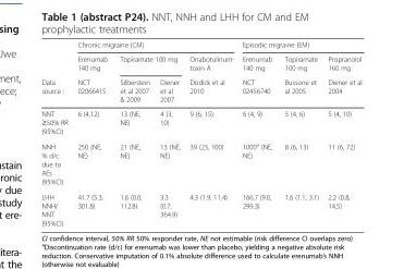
<table><thead><tr><td rowspan="3">Data source :</td><td colspan="4">Chronic migraine (CM)</td><td colspan="3">Episodic migraine (EM)</td></tr><tr><td rowspan="2">Erenumab 140 mg NCT 02066415</td><td colspan="2">Topiramate 100 mg</td><td rowspan="2">Onabotulinum- toxin A Dodick et al 2010</td><td rowspan="2">Erenumab 140 mg NCT 02456740</td><td rowspan="2">Topiramate 100 mg Bussone et al 2005</td><td rowspan="2">Propranolol 160 mg Diener et al 2004</td></tr><tr><td>Silberstein et al 2007 &amp; 2009</td><td>Diener et al 2007</td></tr></thead><tbody><tr><td>NNT ≥50% RR (95%CI)</td><td>6 (4,12)</td><td>13 (NE, NE)</td><td>4 (3, 10)</td><td>9 (6, 15)</td><td>6 (4, 9)</td><td>5 (4, 6)</td><td>5 (4, 10)</td></tr><tr><td>NNH % d/c due to AEs (95%CI)</td><td>250 (NE, NE)</td><td>21 (NE, NE)</td><td>13 (NE, NE)</td><td>39 (23, 100)</td><td>1000<sup>a</sup> (NE, NE)</td><td>8 (6, 13)</td><td>11 (6, 72)</td></tr><tr><td>LHH NNH/ NNT (95%CI)</td><td>41.7 (5.3, 301.8)</td><td>1.6 (0.0, 112.8)</td><td>3.3 (0.7, 364.9)</td><td>4.3 (1.9, 11.4)</td><td>166.7 (9.0, 299.3)</td><td>1.6 (1.1, 3.1)</td><td>2.2 (0.8, 14.5)</td></tr></tbody></table>